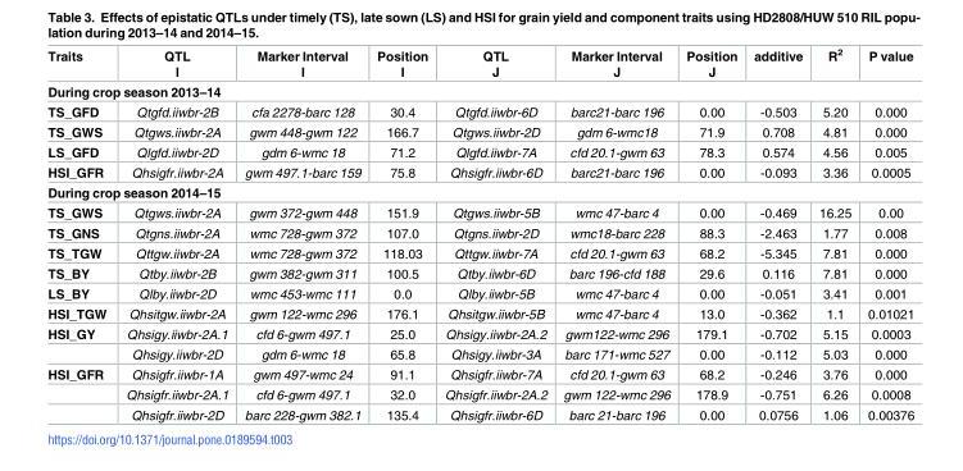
<table><thead><tr><td>Traits</td><td>QTL I</td><td>Marker Interval I</td><td>Position I</td><td>QTL J</td><td>Marker Interval J</td><td>Position J</td><td>additive</td><td>R<sup>2</sup></td><td>P value</td></tr></thead><tbody><tr><td colspan="10">During crop season 2013–14</td></tr><tr><td>TS_GFD</td><td>Qtgfd.iiwbr-2B</td><td>cfa 2278-barc 128</td><td>30.4</td><td>Qtgfd.iiwbr-6D</td><td>barc21-barc 196</td><td>0.00</td><td>-0.503</td><td>5.20</td><td>0.000</td></tr><tr><td>TS_GWS</td><td>Qtgws.iiwbr-2A</td><td>gwm 448-gwm 122</td><td>166.7</td><td>Qtgws.iiwbr-2D</td><td>gdm 6-wmc18</td><td>71.9</td><td>0.708</td><td>4.81</td><td>0.000</td></tr><tr><td>LS_GFD</td><td>Qlgfd.iiwbr-2D</td><td>gdm 6-wmc 18</td><td>71.2</td><td>Qlgfd.iiwbr-7A</td><td>cfd 20.1-gwm 63</td><td>78.3</td><td>0.574</td><td>4.56</td><td>0.005</td></tr><tr><td>HSI_GFR</td><td>Qhsigfr.iiwbr-2A</td><td>gwm 497.1-barc 159</td><td>75.8</td><td>Qhsigfr.iiwbr-6D</td><td>barc21-barc 196</td><td>0.00</td><td>-0.093</td><td>3.36</td><td>0.0005</td></tr><tr><td colspan="10">During crop season 2014–15</td></tr><tr><td>TS_GWS</td><td>Qtgws.iiwbr-2A</td><td>gwm 372-gwm 448</td><td>151.9</td><td>Qtgws.iiwbr-5B</td><td>wmc 47-barc 4</td><td>0.00</td><td>-0.469</td><td>16.25</td><td>0.00</td></tr><tr><td>TS_GNS</td><td>Qtgns.iiwbr-2A</td><td>wmc 728-gwm 372</td><td>107.0</td><td>Qtgns.iiwbr-2D</td><td>wmc18-barc 228</td><td>88.3</td><td>-2.463</td><td>1.77</td><td>0.008</td></tr><tr><td>TS_TGW</td><td>Qttgw.iiwbr-2A</td><td>wmc 728-gwm 372</td><td>118.03</td><td>Qttgw.iiwbr-7A</td><td>cfd 20.1-gwm 63</td><td>68.2</td><td>-5.345</td><td>7.81</td><td>0.000</td></tr><tr><td>TS_BY</td><td>Qtby.iiwbr-2B</td><td>gwm 382-gwm 311</td><td>100.5</td><td>Qtby.iiwbr-6D</td><td>barc 196-cfd 188</td><td>29.6</td><td>0.116</td><td>7.81</td><td>0.000</td></tr><tr><td>LS_BY</td><td>Qlby.iiwbr-2D</td><td>wmc 453-wmc 111</td><td>0.0</td><td>Qlby.iiwbr-5B</td><td>wmc 47-barc 4</td><td>0.00</td><td>-0.051</td><td>3.41</td><td>0.001</td></tr><tr><td>HSI_TGW</td><td>Qhsitgw.iiwbr-2A</td><td>gwm 122-wmc 296</td><td>176.1</td><td>Qhsitgw.iiwbr-5B</td><td>wmc 47-barc 4</td><td>13.0</td><td>-0.362</td><td>1.1</td><td>0.01021</td></tr><tr><td rowspan="2">HSI_GY</td><td>Qhsigy.iiwbr-2A.1</td><td>cfd 6-gwm 497.1</td><td>25.0</td><td>Qhsigy.iiwbr-2A.2</td><td>gwm122-wmc 296</td><td>179.1</td><td>-0.702</td><td>5.15</td><td>0.0003</td></tr><tr><td>Qhsigy.iiwbr-2D</td><td>gdm 6-wmc 18</td><td>65.8</td><td>Qhsigy.iiwbr-3A</td><td>barc 171-wmc 527</td><td>0.00</td><td>-0.112</td><td>5.03</td><td>0.000</td></tr><tr><td rowspan="3">HSI_GFR</td><td>Qhsigfr.iiwbr-1A</td><td>gwm 497-wmc 24</td><td>91.1</td><td>Qhsigfr.iiwbr-7A</td><td>cfd 20.1-gwm 63</td><td>68.2</td><td>-0.246</td><td>3.76</td><td>0.000</td></tr><tr><td>Qhsigfr.iiwbr-2A.1</td><td>cfd 6-gwm 497.1</td><td>32.0</td><td>Qhsigfr.iiwbr-2A.2</td><td>gwm 122-wmc 296</td><td>178.9</td><td>-0.751</td><td>6.26</td><td>0.0008</td></tr><tr><td>Qhsigfr.iiwbr-2D</td><td>barc 228-gwm 382.1</td><td>135.4</td><td>Qhsigfr.iiwbr-6D</td><td>barc 21-barc 196</td><td>0.00</td><td>0.0756</td><td>1.06</td><td>0.00376</td></tr></tbody></table>